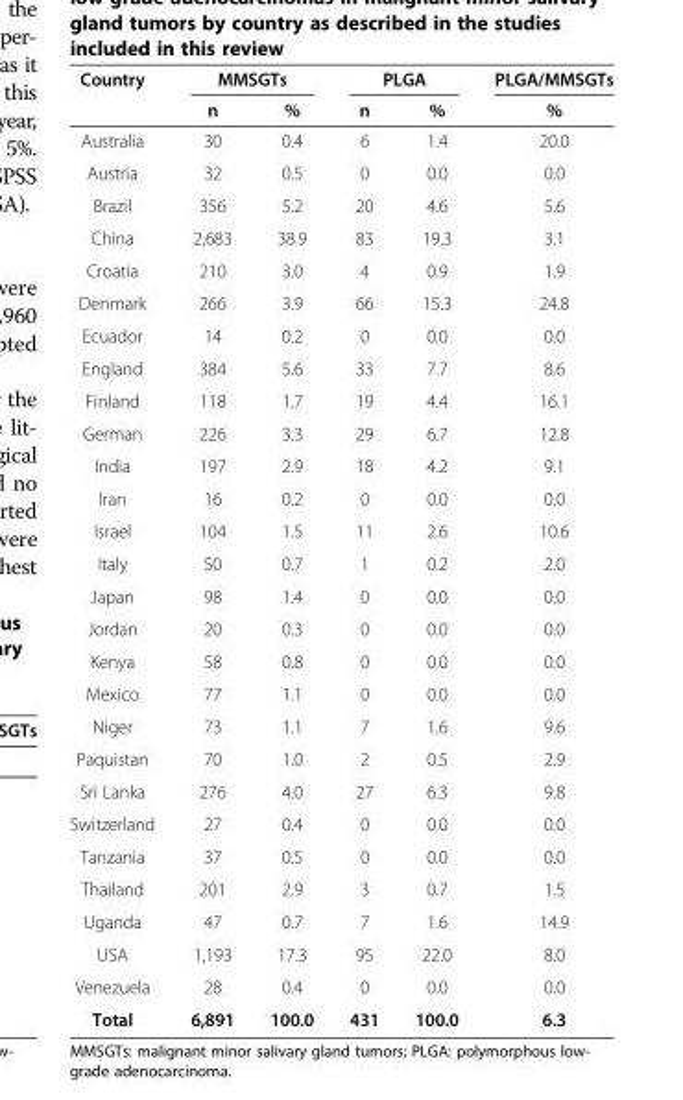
<table><thead><tr><td rowspan="2">Country</td><td colspan="2">MMSGTs</td><td colspan="2">PLGA</td><td rowspan="2">PLGA/MMSGTs %</td></tr><tr><td>n</td><td>%</td><td>n</td><td>%</td></tr></thead><tbody><tr><td>Australia</td><td>30</td><td>0.4</td><td>6</td><td>1.4</td><td>20.0</td></tr><tr><td>Austria</td><td>32</td><td>0.5</td><td>0</td><td>0.0</td><td>0.0</td></tr><tr><td>Brazil</td><td>356</td><td>5.2</td><td>20</td><td>4.6</td><td>5.6</td></tr><tr><td>China</td><td>2,683</td><td>38.9</td><td>83</td><td>19.3</td><td>3.1</td></tr><tr><td>Croatia</td><td>210</td><td>3.0</td><td>4</td><td>0.9</td><td>1.9</td></tr><tr><td>Denmark</td><td>266</td><td>3.9</td><td>66</td><td>15.3</td><td>24.8</td></tr><tr><td>Ecuador</td><td>14</td><td>0.2</td><td>0</td><td>0.0</td><td>0.0</td></tr><tr><td>England</td><td>384</td><td>5.6</td><td>33</td><td>7.7</td><td>8.6</td></tr><tr><td>Finland</td><td>118</td><td>1.7</td><td>19</td><td>4.4</td><td>16.1</td></tr><tr><td>German</td><td>226</td><td>3.3</td><td>29</td><td>6.7</td><td>12.8</td></tr><tr><td>India</td><td>197</td><td>2.9</td><td>18</td><td>4.2</td><td>9.1</td></tr><tr><td>Iran</td><td>16</td><td>0.2</td><td>0</td><td>0.0</td><td>0.0</td></tr><tr><td>Israel</td><td>104</td><td>1.5</td><td>11</td><td>2.6</td><td>10.6</td></tr><tr><td>Italy</td><td>50</td><td>0.7</td><td>1</td><td>0.2</td><td>2.0</td></tr><tr><td>Japan</td><td>98</td><td>1.4</td><td>0</td><td>0.0</td><td>0.0</td></tr><tr><td>Jordan</td><td>20</td><td>0.3</td><td>0</td><td>0.0</td><td>0.0</td></tr><tr><td>Kenya</td><td>58</td><td>0.8</td><td>0</td><td>0.0</td><td>0.0</td></tr><tr><td>Mexico</td><td>77</td><td>1.1</td><td>0</td><td>0.0</td><td>0.0</td></tr><tr><td>Niger</td><td>73</td><td>1.1</td><td>7</td><td>1.6</td><td>9.6</td></tr><tr><td>Paquistan</td><td>70</td><td>1.0</td><td>2</td><td>0.5</td><td>2.9</td></tr><tr><td>Sri Lanka</td><td>276</td><td>4.0</td><td>27</td><td>6.3</td><td>9.8</td></tr><tr><td>Switzerland</td><td>27</td><td>0.4</td><td>0</td><td>0.0</td><td>0.0</td></tr><tr><td>Tanzania</td><td>37</td><td>0.5</td><td>0</td><td>0.0</td><td>0.0</td></tr><tr><td>Thailand</td><td>201</td><td>2.9</td><td>3</td><td>0.7</td><td>1.5</td></tr><tr><td>Uganda</td><td>47</td><td>0.7</td><td>7</td><td>1.6</td><td>14.9</td></tr><tr><td>USA</td><td>1,193</td><td>17.3</td><td>95</td><td>22.0</td><td>8.0</td></tr><tr><td>Venezuela</td><td>28</td><td>0.4</td><td>0</td><td>0.0</td><td>0.0</td></tr><tr><td>Total</td><td>6,891</td><td>100.0</td><td>431</td><td>100.0</td><td>6.3</td></tr></tbody></table>